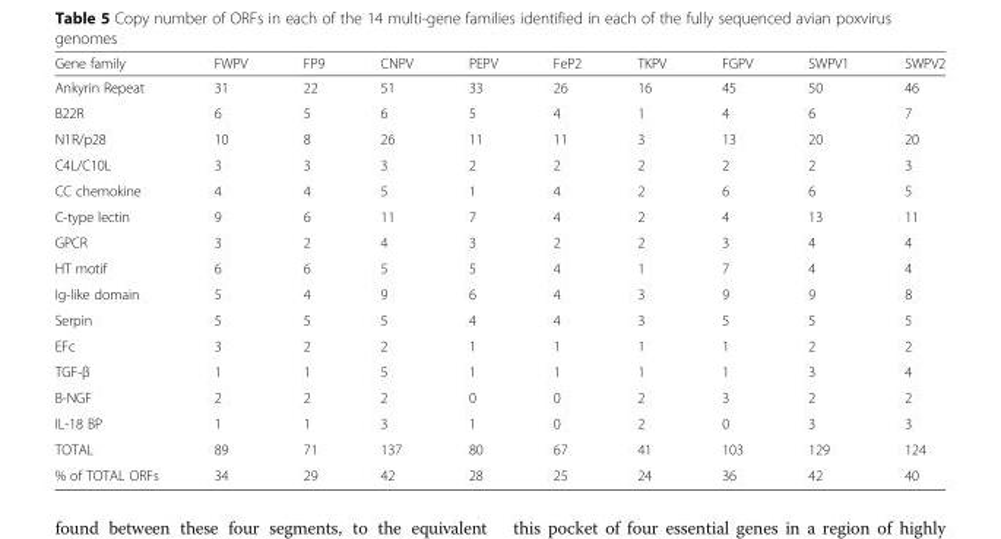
<table><thead><tr><td>Gene family</td><td>FWPV</td><td>FP9</td><td>CNPV</td><td>PEPV</td><td>FeP2</td><td>TKPV</td><td>FGPV</td><td>SWPV1</td><td>SWPV2</td></tr></thead><tbody><tr><td>Ankyrin Repeat</td><td>31</td><td>22</td><td>51</td><td>33</td><td>26</td><td>16</td><td>45</td><td>50</td><td>46</td></tr><tr><td>B22R</td><td>6</td><td>5</td><td>6</td><td>5</td><td>4</td><td>1</td><td>4</td><td>6</td><td>7</td></tr><tr><td>N1R/p28</td><td>10</td><td>8</td><td>26</td><td>11</td><td>11</td><td>3</td><td>13</td><td>20</td><td>20</td></tr><tr><td>C4L/C10L</td><td>3</td><td>3</td><td>3</td><td>2</td><td>2</td><td>2</td><td>2</td><td>2</td><td>3</td></tr><tr><td>CC chemokine</td><td>4</td><td>4</td><td>5</td><td>1</td><td>4</td><td>2</td><td>6</td><td>6</td><td>5</td></tr><tr><td>C-type lectin</td><td>9</td><td>6</td><td>11</td><td>7</td><td>4</td><td>2</td><td>4</td><td>13</td><td>11</td></tr><tr><td>GPCR</td><td>3</td><td>2</td><td>4</td><td>3</td><td>2</td><td>2</td><td>3</td><td>4</td><td>4</td></tr><tr><td>HT motif</td><td>6</td><td>6</td><td>5</td><td>5</td><td>4</td><td>1</td><td>7</td><td>4</td><td>4</td></tr><tr><td>Ig-like domain</td><td>5</td><td>4</td><td>9</td><td>6</td><td>4</td><td>3</td><td>9</td><td>9</td><td>8</td></tr><tr><td>Serpin</td><td>5</td><td>5</td><td>5</td><td>4</td><td>4</td><td>3</td><td>5</td><td>5</td><td>5</td></tr><tr><td>EFc</td><td>3</td><td>2</td><td>2</td><td>1</td><td>1</td><td>1</td><td>1</td><td>2</td><td>2</td></tr><tr><td>TGF-β</td><td>1</td><td>1</td><td>5</td><td>1</td><td>1</td><td>1</td><td>1</td><td>3</td><td>4</td></tr><tr><td>Β-NGF</td><td>2</td><td>2</td><td>2</td><td>0</td><td>0</td><td>2</td><td>3</td><td>2</td><td>2</td></tr><tr><td>IL-18 BP</td><td>1</td><td>1</td><td>3</td><td>1</td><td>0</td><td>2</td><td>0</td><td>3</td><td>3</td></tr><tr><td>TOTAL</td><td>89</td><td>71</td><td>137</td><td>80</td><td>67</td><td>41</td><td>103</td><td>129</td><td>124</td></tr><tr><td>% of TOTAL ORFs</td><td>34</td><td>29</td><td>42</td><td>28</td><td>25</td><td>24</td><td>36</td><td>42</td><td>40</td></tr></tbody></table>